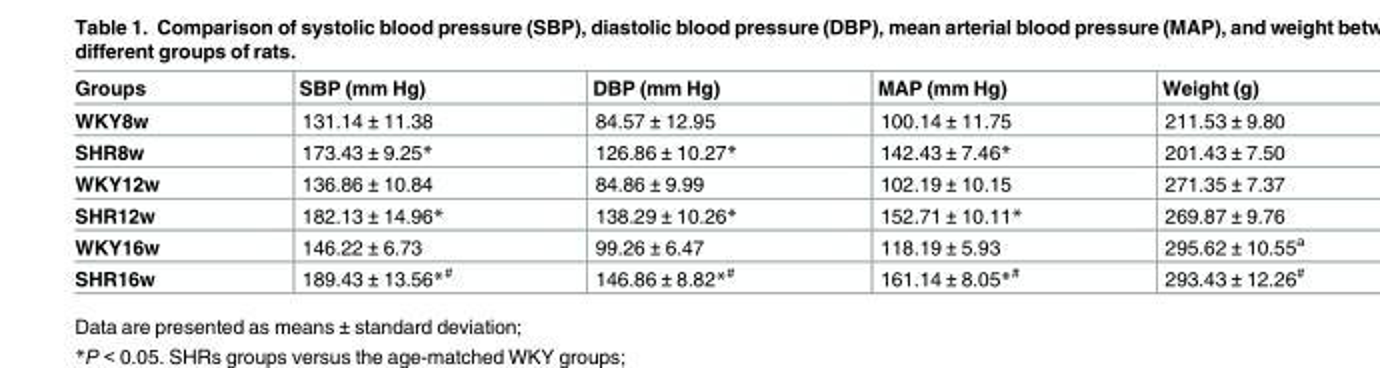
<table><thead><tr><td>Groups</td><td>SBP (mm Hg)</td><td>DBP (mm Hg)</td><td>MAP (mm Hg)</td><td>Weight (g)</td></tr></thead><tbody><tr><td>WKY8w</td><td>131.14 ± 11.38</td><td>84.57 ± 12.95</td><td>100.14 ± 11.75</td><td>211.53 ± 9.80</td></tr><tr><td>SHR8w</td><td>173.43 ± 9.25*</td><td>126.86 ± 10.27*</td><td>142.43 ± 7.46*</td><td>201.43 ± 7.50</td></tr><tr><td>WKY12w</td><td>136.86 ± 10.84</td><td>84.86 ± 9.99</td><td>102.19 ± 10.15</td><td>271.35 ± 7.37</td></tr><tr><td>SHR12w</td><td>182.13 ± 14.96*</td><td>138.29 ± 10.26*</td><td>152.71 ± 10.11*</td><td>269.87 ± 9.76</td></tr><tr><td>WKY16w</td><td>146.22 ± 6.73</td><td>99.26 ± 6.47</td><td>118.19 ± 5.93</td><td>295.62 ± 10.55<sup>a</sup></td></tr><tr><td>SHR16w</td><td>189.43 ± 13.56*<sup>#</sup></td><td>146.86 ± 8.82*<sup>#</sup></td><td>161.14 ± 8.05*<sup>#</sup></td><td>293.43 ± 12.26<sup>#</sup></td></tr></tbody></table>